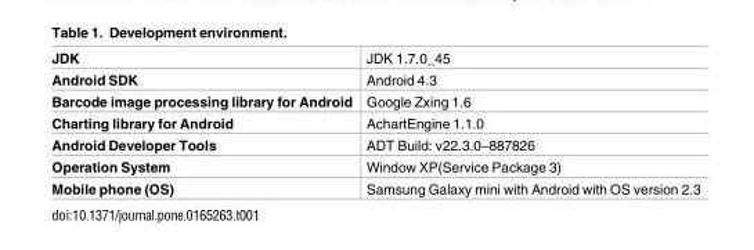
<table><tbody><tr><td>JDK</td><td>JDK 1.7.0_45</td></tr><tr><td>Android SDK</td><td>Android 4.3</td></tr><tr><td>Barcode image processing library for Android</td><td>Google Zxing 1.6</td></tr><tr><td>Charting library for Android</td><td>AchartEngine 1.1.0</td></tr><tr><td>Android Developer Tools</td><td>ADT Build: v22.3.0–887826</td></tr><tr><td>Operation System</td><td>Window XP(Service Package 3)</td></tr><tr><td>Mobile phone (OS)</td><td>Samsung Galaxy mini with Android with OS version 2.3</td></tr></tbody></table>